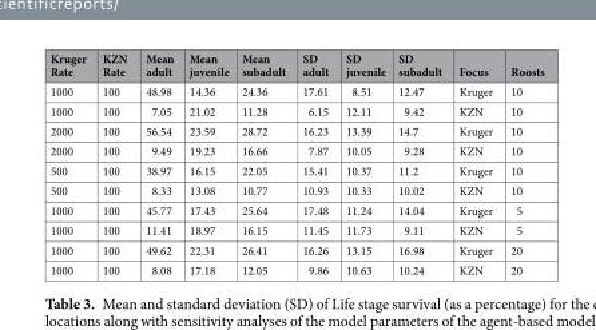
<table><thead><tr><td>Kruger Rate</td><td>KZN Rate</td><td>Mean adult</td><td>Mean juvenile</td><td>Mean subadult</td><td>SD adult</td><td>SD juvenile</td><td>SD subadult</td><td>Focus</td><td>Roosts</td></tr></thead><tbody><tr><td>1000</td><td>100</td><td>48.98</td><td>14.36</td><td>24.36</td><td>17.61</td><td>8.51</td><td>12.47</td><td>Kruger</td><td>10</td></tr><tr><td>1000</td><td>100</td><td>7.05</td><td>21.02</td><td>11.28</td><td>6.15</td><td>12.11</td><td>9.42</td><td>KZN</td><td>10</td></tr><tr><td>2000</td><td>100</td><td>56.54</td><td>23.59</td><td>28.72</td><td>16.23</td><td>13.39</td><td>14.7</td><td>Kruger</td><td>10</td></tr><tr><td>2000</td><td>100</td><td>9.49</td><td>19.23</td><td>16.66</td><td>7.87</td><td>10.05</td><td>9.28</td><td>KZN</td><td>10</td></tr><tr><td>500</td><td>100</td><td>38.97</td><td>16.15</td><td>22.05</td><td>15.41</td><td>10.37</td><td>11.2</td><td>Kruger</td><td>10</td></tr><tr><td>500</td><td>100</td><td>8.33</td><td>13.08</td><td>10.77</td><td>10.93</td><td>10.33</td><td>10.02</td><td>KZN</td><td>10</td></tr><tr><td>1000</td><td>100</td><td>45.77</td><td>17.43</td><td>25.64</td><td>17.48</td><td>11.24</td><td>14.04</td><td>Kruger</td><td>5</td></tr><tr><td>1000</td><td>100</td><td>11.41</td><td>18.97</td><td>16.15</td><td>11.45</td><td>11.73</td><td>9.11</td><td>KZN</td><td>5</td></tr><tr><td>1000</td><td>100</td><td>49.62</td><td>22.31</td><td>26.41</td><td>16.26</td><td>13.15</td><td>16.98</td><td>Kruger</td><td>20</td></tr><tr><td>1000</td><td>100</td><td>8.08</td><td>17.18</td><td>12.05</td><td>9.86</td><td>10.63</td><td>10.24</td><td>KZN</td><td>20</td></tr></tbody></table>